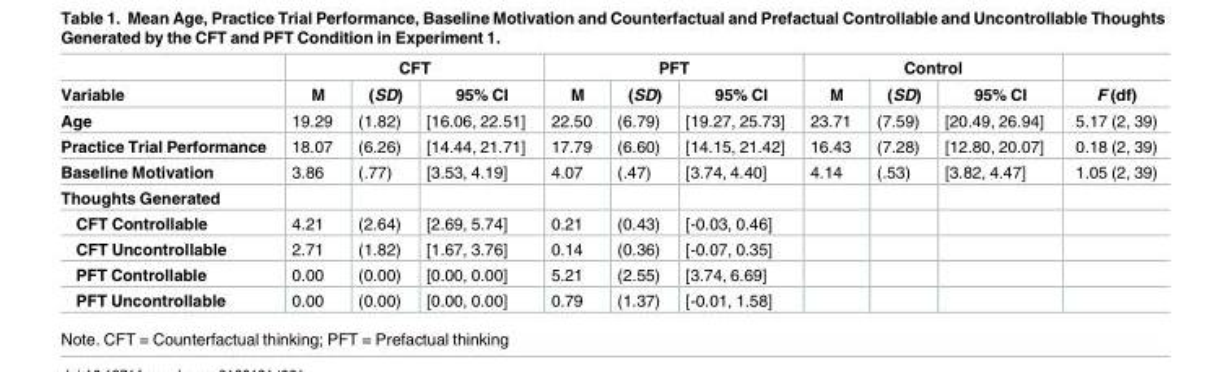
<table><thead><tr><td rowspan="2">Variable</td><td colspan="3">CFT</td><td colspan="3">PFT</td><td colspan="3">Control</td><td rowspan="2">F (df)</td></tr><tr><td>M</td><td>(SD)</td><td>95% CI</td><td>M</td><td>(SD)</td><td>95% CI</td><td>M</td><td>(SD)</td><td>95% CI</td></tr></thead><tbody><tr><td>Age</td><td>19.29</td><td>(1.82)</td><td>[16.06, 22.51]</td><td>22.50</td><td>(6.79)</td><td>[19.27, 25.73]</td><td>23.71</td><td>(7.59)</td><td>[20.49, 26.94]</td><td>5.17 (2, 39)</td></tr><tr><td>Practice Trial Performance</td><td>18.07</td><td>(6.26)</td><td>[14.44, 21.71]</td><td>17.79</td><td>(6.60)</td><td>[14.15, 21.42]</td><td>16.43</td><td>(7.28)</td><td>[12.80, 20.07]</td><td>0.18 (2, 39)</td></tr><tr><td>Baseline Motivation</td><td>3.86</td><td>(.77)</td><td>[3.53, 4.19]</td><td>4.07</td><td>(.47)</td><td>[3.74, 4.40]</td><td>4.14</td><td>(.53)</td><td>[3.82, 4.47]</td><td>1.05 (2, 39)</td></tr><tr><td colspan="11">Thoughts Generated</td></tr><tr><td>CFT Controllable</td><td>4.21</td><td>(2.64)</td><td>[2.69, 5.74]</td><td>0.21</td><td>(0.43)</td><td>[-0.03, 0.46]</td><td></td><td></td><td></td><td></td></tr><tr><td>CFT Uncontrollable</td><td>2.71</td><td>(1.82)</td><td>[1.67, 3.76]</td><td>0.14</td><td>(0.36)</td><td>[-0.07, 0.35]</td><td></td><td></td><td></td><td></td></tr><tr><td>PFT Controllable</td><td>0.00</td><td>(0.00)</td><td>[0.00, 0.00]</td><td>5.21</td><td>(2.55)</td><td>[3.74, 6.69]</td><td></td><td></td><td></td><td></td></tr><tr><td>PFT Uncontrollable</td><td>0.00</td><td>(0.00)</td><td>[0.00, 0.00]</td><td>0.79</td><td>(1.37)</td><td>[-0.01, 1.58]</td><td></td><td></td><td></td><td></td></tr></tbody></table>